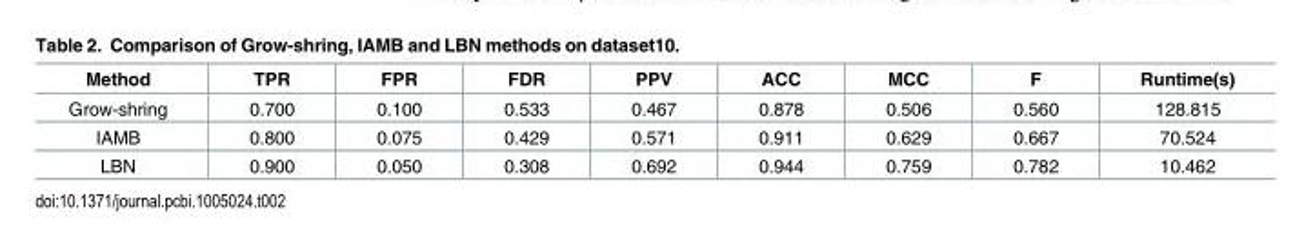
<table><thead><tr><td>Method</td><td>TPR</td><td>FPR</td><td>FDR</td><td>PPV</td><td>ACC</td><td>MCC</td><td>F</td><td>Runtime(s)</td></tr></thead><tbody><tr><td>Grow-shring</td><td>0.700</td><td>0.100</td><td>0.533</td><td>0.467</td><td>0.878</td><td>0.506</td><td>0.560</td><td>128.815</td></tr><tr><td>IAMB</td><td>0.800</td><td>0.075</td><td>0.429</td><td>0.571</td><td>0.911</td><td>0.629</td><td>0.667</td><td>70.524</td></tr><tr><td>LBN</td><td>0.900</td><td>0.050</td><td>0.308</td><td>0.692</td><td>0.944</td><td>0.759</td><td>0.782</td><td>10.462</td></tr></tbody></table>